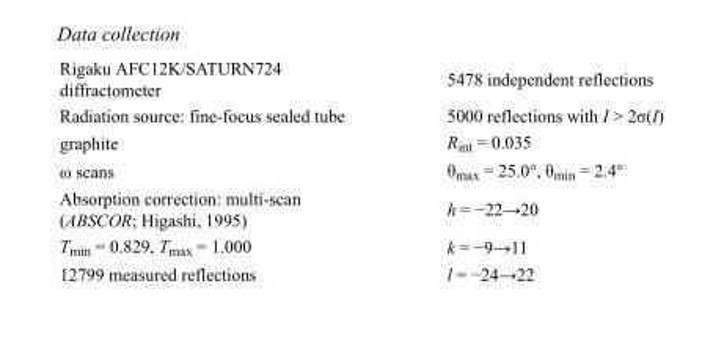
<table><tbody><tr><td>Rigaku AFC12K/SATURN724 diffractometer</td><td>5478 independent reflections</td></tr><tr><td>Radiation source: fine-focus sealed tube</td><td>5000 reflections with I &gt; 2σ(I)</td></tr><tr><td>graphite</td><td>R<sub>int</sub> = 0.035</td></tr><tr><td>ω scans</td><td>θ<sub>max</sub> = 25.0°, θ<sub>min</sub> = 2.4°</td></tr><tr><td>Absorption correction: multi-scan (ABSCOR; Higashi, 1995)</td><td>h = −22→20</td></tr><tr><td>T<sub>min</sub> = 0.829, T<sub>max</sub> = 1.000</td><td>k = −9→11</td></tr><tr><td>12799 measured reflections</td><td>l = −24→22</td></tr></tbody></table>